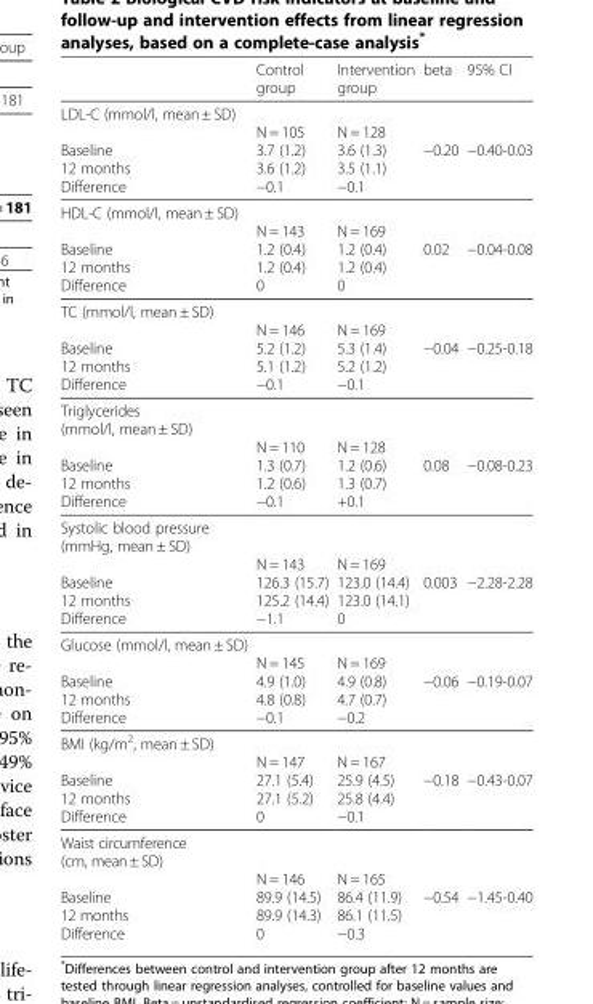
<table><thead><tr><td></td><td>Control group</td><td>Intervention group</td><td>beta</td><td>95% CI</td></tr></thead><tbody><tr><td>LDL-C (mmol/l, mean ± SD) Baseline 12 months Difference</td><td>N = 105 3.7 (1.2) 3.6 (1.2) −0.1</td><td>N = 128 3.6 (1.3) 3.5 (1.1) −0.1</td><td>−0.20</td><td>−0.40-0.03</td></tr><tr><td>HDL-C (mmol/l, mean ± SD) Baseline 12 months Difference</td><td>N = 143 1.2 (0.4) 1.2 (0.4) 0</td><td>N = 169 1.2 (0.4) 1.2 (0.4) 0</td><td>0.02</td><td>−0.04-0.08</td></tr><tr><td>TC (mmol/l, mean ± SD) Baseline 12 months Difference</td><td>N = 146 5.2 (1.2) 5.1 (1.2) −0.1</td><td>N = 169 5.3 (1.4) 5.2 (1.2) −0.1</td><td>−0.04</td><td>−0.25-0.18</td></tr><tr><td>Triglycerides (mmol/l, mean ± SD) Baseline 12 months Difference</td><td>N = 110 1.3 (0.7) 1.2 (0.6) −0.1</td><td>N = 128 1.2 (0.6) 1.3 (0.7) +0.1</td><td>0.08</td><td>−0.08-0.23</td></tr><tr><td>Systolic blood pressure (mmHg, mean ± SD) Baseline 12 months Difference</td><td>N = 143 126.3 (15.7) 125.2 (14.4) −1.1</td><td>N = 169 123.0 (14.4) 123.0 (14.1) 0</td><td>0.003</td><td>−2.28-2.28</td></tr><tr><td>Glucose (mmol/l, mean ± SD) Baseline 12 months Difference</td><td>N = 145 4.9 (1.0) 4.8 (0.8) −0.1</td><td>N = 169 4.9 (0.8) 4.7 (0.7) −0.2</td><td>−0.06</td><td>−0.19-0.07</td></tr><tr><td>BMI (kg/m<sup>2</sup>, mean ± SD) Baseline 12 months Difference</td><td>N = 147 27.1 (5.4) 27.1 (5.2) 0</td><td>N = 167 25.9 (4.5) 25.8 (4.4) −0.1</td><td>−0.18</td><td>−0.43-0.07</td></tr><tr><td>Waist circumference (cm, mean ± SD) Baseline 12 months Difference</td><td>N = 146 89.9 (14.5) 89.9 (14.3) 0</td><td>N = 165 86.4 (11.9) 86.1 (11.5) −0.3</td><td>−0.54</td><td>−1.45-0.40</td></tr></tbody></table>